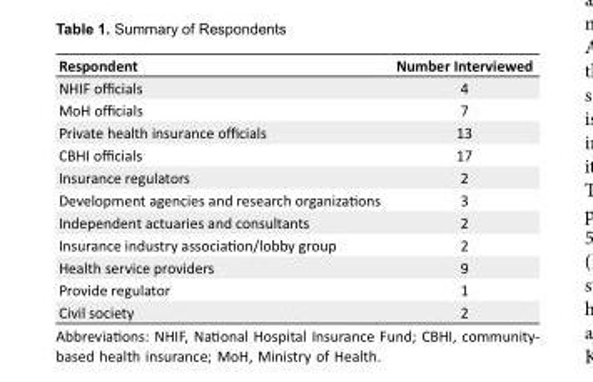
<table><tbody><tr><td>Respondent</td><td>Number Interviewed</td></tr><tr><td>NHIF officials</td><td>4</td></tr><tr><td>MoH officials</td><td>7</td></tr><tr><td>Private health insurance officials</td><td>13</td></tr><tr><td>CBHI officials</td><td>17</td></tr><tr><td>Insurance regulators</td><td>2</td></tr><tr><td>Development agencies and research organizations</td><td>3</td></tr><tr><td>Independent actuaries and consultants</td><td>2</td></tr><tr><td>Insurance industry association/lobby group</td><td>2</td></tr><tr><td>Health service providers</td><td>9</td></tr><tr><td>Provide regulator</td><td>1</td></tr><tr><td>Civil society</td><td>2</td></tr></tbody></table>